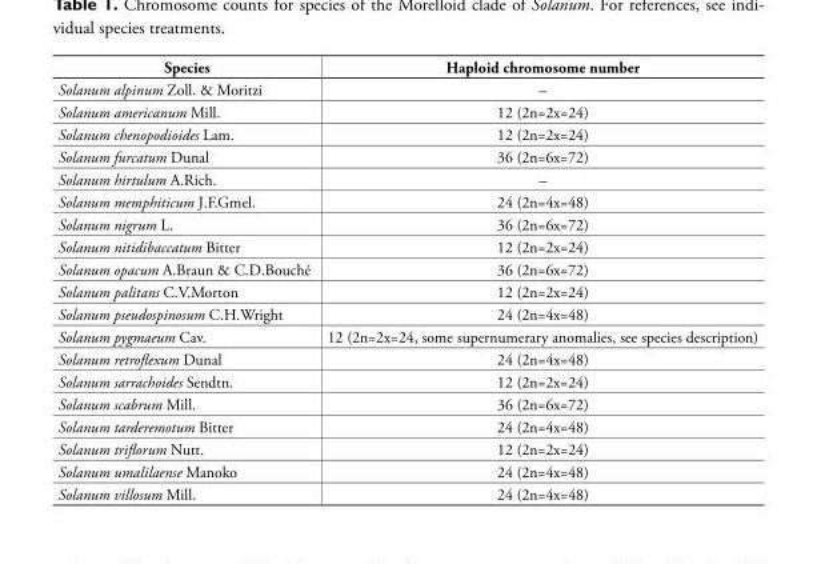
<table><tbody><tr><td>Species</td><td>Haploid chromosome number</td></tr><tr><td>Solanum alpinum Zoll. &amp; Moritzi</td><td>–</td></tr><tr><td>Solanum americanum Mill.</td><td>12 (2n=2x=24)</td></tr><tr><td>Solanum chenopodioides Lam.</td><td>12 (2n=2x=24)</td></tr><tr><td>Solanum furcatum Dunal</td><td>36 (2n=6x=72)</td></tr><tr><td>Solanum hirtulum A.Rich.</td><td>–</td></tr><tr><td>Solanum memphiticum J.F.Gmel.</td><td>24 (2n=4x=48)</td></tr><tr><td>Solanum nigrum L.</td><td>36 (2n=6x=72)</td></tr><tr><td>Solanum nitidibaccatum Bitter</td><td>12 (2n=2x=24)</td></tr><tr><td>Solanum opacum A.Braun &amp; C.D.Bouché</td><td>36 (2n=6x=72)</td></tr><tr><td>Solanum palitans C.V.Morton</td><td>12 (2n=2x=24)</td></tr><tr><td>Solanum pseudospinosum C.H.Wright</td><td>24 (2n=4x=48)</td></tr><tr><td>Solanum pygmaeum Cav.</td><td>12 (2n=2x=24, some supernumerary anomalies, see species description)</td></tr><tr><td>Solanum retroflexum Dunal</td><td>24 (2n=4x=48)</td></tr><tr><td>Solanum sarrachoides Sendtn.</td><td>12 (2n=2x=24)</td></tr><tr><td>Solanum scabrum Mill.</td><td>36 (2n=6x=72)</td></tr><tr><td>Solanum tarderemotum Bitter</td><td>24 (2n=4x=48)</td></tr><tr><td>Solanum triflorum Nutt.</td><td>12 (2n=2x=24)</td></tr><tr><td>Solanum umalilaense Manoko</td><td>24 (2n=4x=48)</td></tr><tr><td>Solanum villosum Mill.</td><td>24 (2n=4x=48)</td></tr></tbody></table>